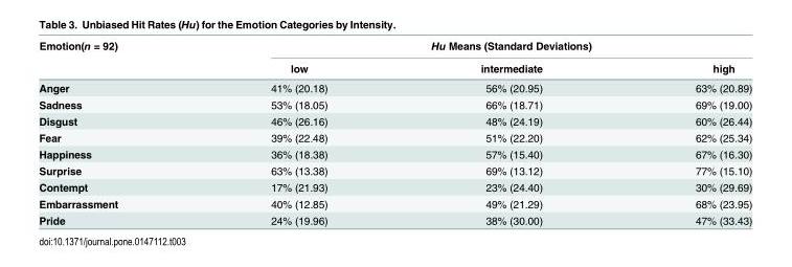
<table><thead><tr><td rowspan="2">Emotion(n = 92)</td><td colspan="3">Hu Means (Standard Deviations)</td></tr><tr><td>low</td><td>intermediate</td><td>high</td></tr></thead><tbody><tr><td>Anger</td><td>41% (20.18)</td><td>56% (20.95)</td><td>63% (20.89)</td></tr><tr><td>Sadness</td><td>53% (18.05)</td><td>66% (18.71)</td><td>69% (19.00)</td></tr><tr><td>Disgust</td><td>46% (26.16)</td><td>48% (24.19)</td><td>60% (26.44)</td></tr><tr><td>Fear</td><td>39% (22.48)</td><td>51% (22.20)</td><td>62% (25.34)</td></tr><tr><td>Happiness</td><td>36% (18.38)</td><td>57% (15.40)</td><td>67% (16.30)</td></tr><tr><td>Surprise</td><td>63% (13.38)</td><td>69% (13.12)</td><td>77% (15.10)</td></tr><tr><td>Contempt</td><td>17% (21.93)</td><td>23% (24.40)</td><td>30% (29.69)</td></tr><tr><td>Embarrassment</td><td>40% (12.85)</td><td>49% (21.29)</td><td>68% (23.95)</td></tr><tr><td>Pride</td><td>24% (19.96)</td><td>38% (30.00)</td><td>47% (33.43)</td></tr></tbody></table>